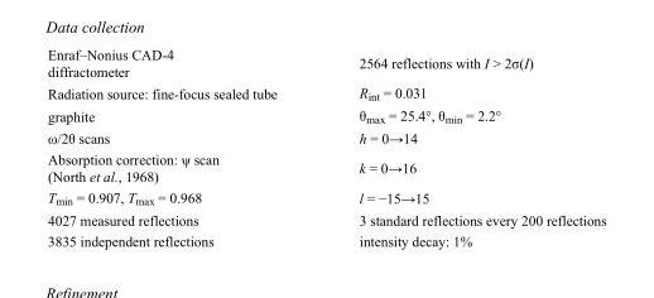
<table><tbody><tr><td>Enraf–Nonius CAD-4 diffractometer</td><td>2564 reflections with I &gt; 2σ(I)</td></tr><tr><td>Radiation source: fine-focus sealed tube</td><td>R<sub>int</sub> = 0.031</td></tr><tr><td>graphite</td><td>θ<sub>max</sub> = 25.4°, θ<sub>min</sub> = 2.2°</td></tr><tr><td>ω/2θ scans</td><td>h = 0→14</td></tr><tr><td>Absorption correction: ψ scan (North et al., 1968)</td><td>k = 0→16</td></tr><tr><td>T<sub>min</sub> = 0.907, T<sub>max</sub> = 0.968</td><td>l = −15→15</td></tr><tr><td>4027 measured reflections</td><td>3 standard reflections every 200 reflections</td></tr><tr><td>3835 independent reflections</td><td>intensity decay: 1%</td></tr></tbody></table>